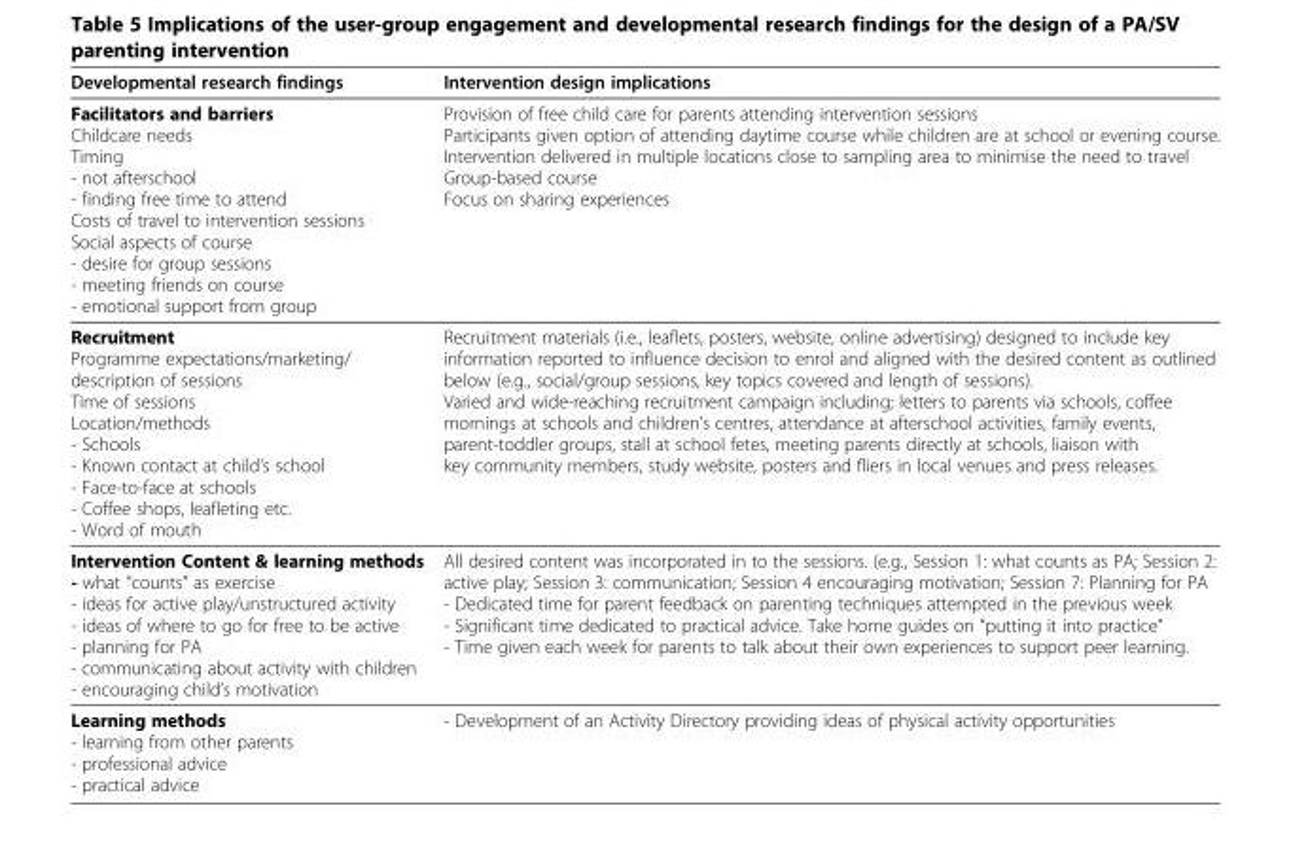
<table><thead><tr><td>Developmental research findings</td><td>Intervention design implications</td></tr></thead><tbody><tr><td>Facilitators and barriers Childcare needs Timing - not afterschool - finding free time to attend Costs of travel to intervention sessions Social aspects of course - desire for group sessions - meeting friends on course - emotional support from group</td><td>Provision of free child care for parents attending intervention sessions Participants given option of attending daytime course while children are at school or evening course. Intervention delivered in multiple locations close to sampling area to minimise the need to travel Group-based course Focus on sharing experiences</td></tr><tr><td>Recruitment Programme expectations/marketing/ description of sessions Time of sessions Location/methods - Schools - Known contact at child’s school - Face-to-face at schools - Coffee shops, leafleting etc. - Word of mouth</td><td>Recruitment materials (i.e., leaflets, posters, website, online advertising) designed to include key information reported to influence decision to enrol and aligned with the desired content as outlined below (e.g., social/group sessions, key topics covered and length of sessions). Varied and wide-reaching recruitment campaign including; letters to parents via schools, coffee mornings at schools and children’s centres, attendance at afterschool activities, family events, parent-toddler groups, stall at school fetes, meeting parents directly at schools, liaison with key community members, study website, posters and fliers in local venues and press releases.</td></tr><tr><td>Intervention Content &amp; learning methods - what “counts” as exercise - ideas for active play/unstructured activity - ideas of where to go for free to be active - planning for PA - communicating about activity with children - encouraging child’s motivation</td><td>All desired content was incorporated in to the sessions. (e.g., Session 1: what counts as PA; Session 2: active play; Session 3: communication; Session 4 encouraging motivation; Session 7: Planning for PA - Dedicated time for parent feedback on parenting techniques attempted in the previous week - Significant time dedicated to practical advice. Take home guides on “putting it into practice” - Time given each week for parents to talk about their own experiences to support peer learning.</td></tr><tr><td>Learning methods - learning from other parents - professional advice - practical advice</td><td>- Development of an Activity Directory providing ideas of physical activity opportunities</td></tr></tbody></table>